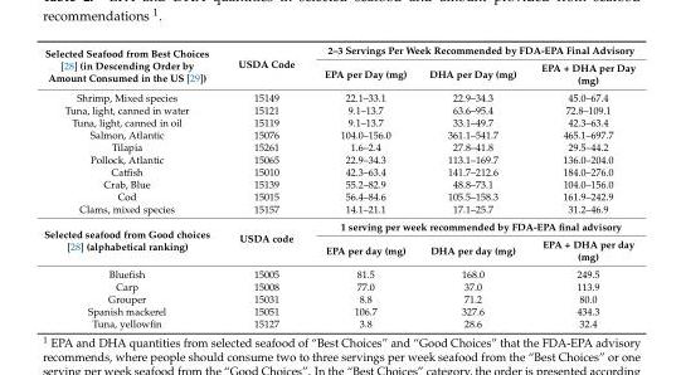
<table><tbody><tr><td rowspan="2">Selected Seafood from Best Choices [28] (in Descending Order by Amount Consumed in the US [29])</td><td rowspan="2">USDA Code</td><td colspan="3">2–3 Servings Per Week Recommended by FDA-EPA Final Advisory</td></tr><tr><td>EPA per Day (mg)</td><td>DHA per Day (mg)</td><td>EPA + DHA per Day (mg)</td></tr><tr><td>Shrimp, Mixed species</td><td>15149</td><td>22.1–33.1</td><td>22.9–34.3</td><td>45.0–67.4</td></tr><tr><td>Tuna, light, canned in water</td><td>15121</td><td>9.1–13.7</td><td>63.6–95.4</td><td>72.8–109.1</td></tr><tr><td>Tuna, light, canned in oil</td><td>15119</td><td>9.1–13.7</td><td>33.1–49.7</td><td>42.3–63.4</td></tr><tr><td>Salmon, Atlantic</td><td>15076</td><td>104.0–156.0</td><td>361.1–541.7</td><td>465.1–697.7</td></tr><tr><td>Tilapia</td><td>15261</td><td>1.6–2.4</td><td>27.8–41.8</td><td>29.5–44.2</td></tr><tr><td>Pollock, Atlantic</td><td>15065</td><td>22.9–34.3</td><td>113.1–169.7</td><td>136.0–204.0</td></tr><tr><td>Catfish</td><td>15010</td><td>42.3–63.4</td><td>141.7–212.6</td><td>184.0–276.0</td></tr><tr><td>Crab, Blue</td><td>15139</td><td>55.2–82.9</td><td>48.8–73.1</td><td>104.0–156.0</td></tr><tr><td>Cod</td><td>15015</td><td>56.4–84.6</td><td>105.5–158.3</td><td>161.9–242.9</td></tr><tr><td>Clams, mixed species</td><td>15157</td><td>14.1–21.1</td><td>17.1–25.7</td><td>31.2–46.9</td></tr><tr><td rowspan="2">Selected seafood from Good choices [28] (alphabetical ranking)</td><td rowspan="2">USDA code</td><td colspan="3">1 serving per week recommended by FDA-EPA final advisory</td></tr><tr><td>EPA per day (mg)</td><td>DHA per day (mg)</td><td>EPA + DHA per day (mg)</td></tr><tr><td>Bluefish</td><td>15005</td><td>81.5</td><td>168.0</td><td>249.5</td></tr><tr><td>Carp</td><td>15008</td><td>77.0</td><td>37.0</td><td>113.9</td></tr><tr><td>Grouper</td><td>15031</td><td>8.8</td><td>71.2</td><td>80.0</td></tr><tr><td>Spanish mackerel</td><td>15051</td><td>106.7</td><td>327.6</td><td>434.3</td></tr><tr><td>Tuna, yellowfin</td><td>15127</td><td>3.8</td><td>28.6</td><td>32.4</td></tr></tbody></table>